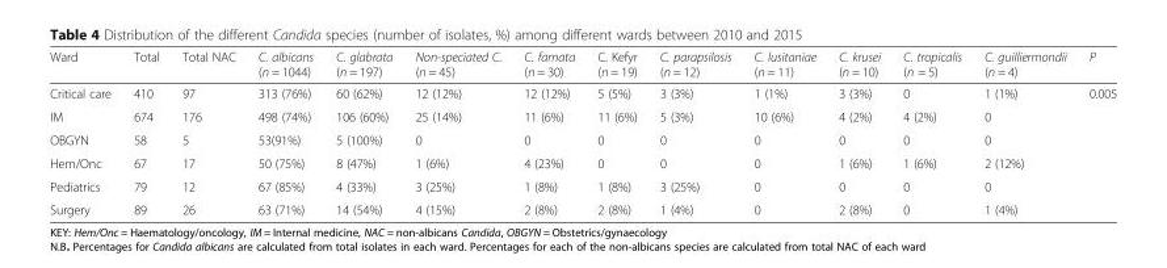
<table><thead><tr><td>Ward</td><td>Total</td><td>Total NAC</td><td>C. albicans (n = 1044)</td><td>C. glabrata (n = 197)</td><td>Non-speciated C. (n = 45)</td><td>C. famata (n = 30)</td><td>C. Kefyr (n = 19)</td><td>C. parapsilosis (n = 12)</td><td>C. lusitaniae (n = 11)</td><td>C. krusei (n = 10)</td><td>C. tropicalis (n = 5)</td><td>C. guilliermondii (n = 4)</td><td>P</td></tr></thead><tbody><tr><td>Critical care</td><td>410</td><td>97</td><td>313 (76%)</td><td>60 (62%)</td><td>12 (12%)</td><td>12 (12%)</td><td>5 (5%)</td><td>3 (3%)</td><td>1 (1%)</td><td>3 (3%)</td><td>0</td><td>1 (1%)</td><td rowspan="6">0.005</td></tr><tr><td>IM</td><td>674</td><td>176</td><td>498 (74%)</td><td>106 (60%)</td><td>25 (14%)</td><td>11 (6%)</td><td>11 (6%)</td><td>5 (3%)</td><td>10 (6%)</td><td>4 (2%)</td><td>4 (2%)</td><td>0</td></tr><tr><td>OBGYN</td><td>58</td><td>5</td><td>53(91%)</td><td>5 (100%)</td><td>0</td><td>0</td><td>0</td><td>0</td><td>0</td><td>0</td><td>0</td><td>0</td></tr><tr><td>Hem/Onc</td><td>67</td><td>17</td><td>50 (75%)</td><td>8 (47%)</td><td>1 (6%)</td><td>4 (23%)</td><td>0</td><td>0</td><td>0</td><td>1 (6%)</td><td>1 (6%)</td><td>2 (12%)</td></tr><tr><td>Pediatrics</td><td>79</td><td>12</td><td>67 (85%)</td><td>4 (33%)</td><td>3 (25%)</td><td>1 (8%)</td><td>1 (8%)</td><td>3 (25%)</td><td>0</td><td>0</td><td>0</td><td>0</td></tr><tr><td>Surgery</td><td>89</td><td>26</td><td>63 (71%)</td><td>14 (54%)</td><td>4 (15%)</td><td>2 (8%)</td><td>2 (8%)</td><td>1 (4%)</td><td>0</td><td>2 (8%)</td><td>0</td><td>1 (4%)</td></tr></tbody></table>